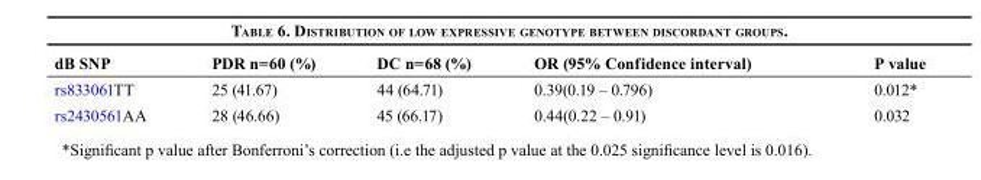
<table><thead><tr><td>dB SNP</td><td>PDR n=60 (%)</td><td>DC n=68 (%)</td><td>OR (95% Confidence interval)</td><td>P value</td></tr></thead><tbody><tr><td>rs833061TT</td><td>25 (41.67)</td><td>44 (64.71)</td><td>0.39(0.19 – 0.796)</td><td>0.012*</td></tr><tr><td>rs2430561AA</td><td>28 (46.66)</td><td>45 (66.17)</td><td>0.44(0.22 – 0.91)</td><td>0.032</td></tr></tbody></table>